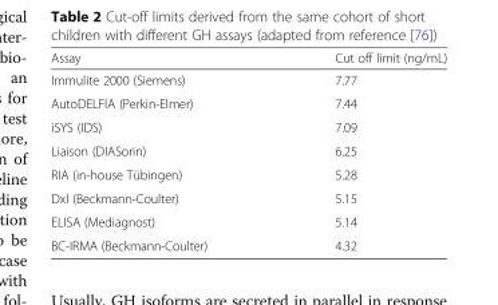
<table><thead><tr><td>Assay</td><td>Cut off limit (ng/mL)</td></tr></thead><tbody><tr><td>Immulite 2000 (Siemens)</td><td>7.77</td></tr><tr><td>AutoDELFIA (Perkin-Elmer)</td><td>7.44</td></tr><tr><td>iSYS (IDS)</td><td>7.09</td></tr><tr><td>Liaison (DIASorin)</td><td>6.25</td></tr><tr><td>RIA (in-house Tübingen)</td><td>5.28</td></tr><tr><td>Dxl (Beckmann-Coulter)</td><td>5.15</td></tr><tr><td>ELISA (Mediagnost)</td><td>5.14</td></tr><tr><td>BC-IRMA (Beckmann-Coulter)</td><td>4.32</td></tr></tbody></table>